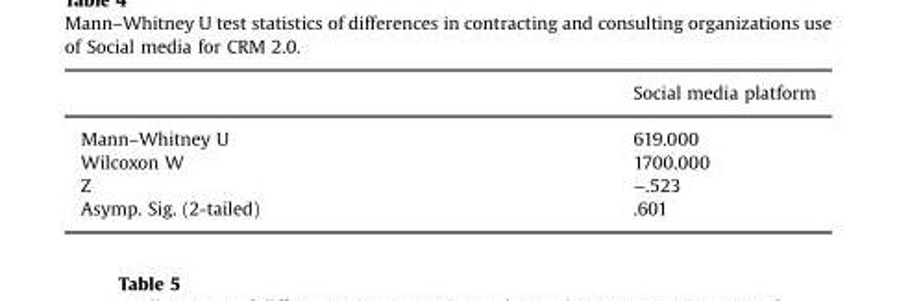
<table><thead><tr><td></td><td>Social media platform</td></tr></thead><tbody><tr><td>Mann–Whitney U</td><td>619.000</td></tr><tr><td>Wilcoxon W</td><td>1700.000</td></tr><tr><td>Z</td><td>−.523</td></tr><tr><td>Asymp. Sig. (2-tailed)</td><td>.601</td></tr></tbody></table>